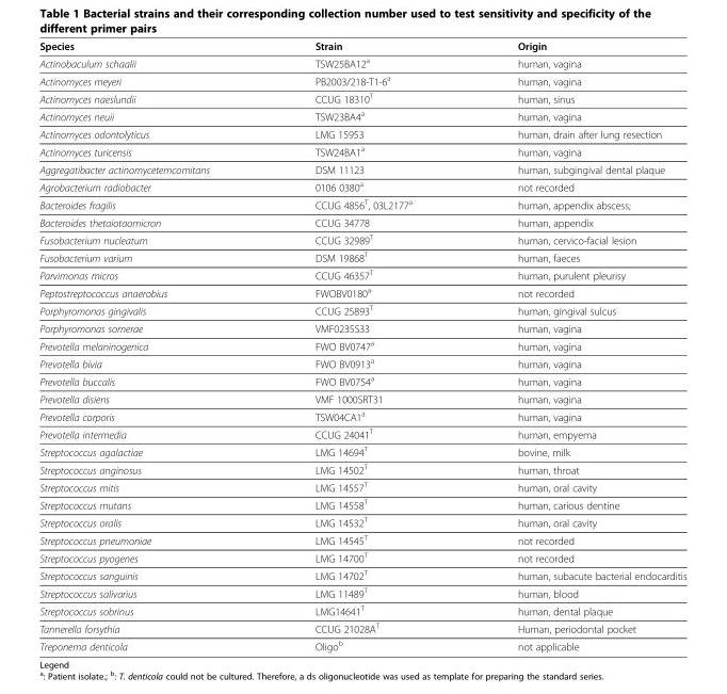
<table><thead><tr><td>Species</td><td>Strain</td><td>Origin</td></tr></thead><tbody><tr><td>Actinobaculum schaalii</td><td>TSW25BA12<sup>a</sup></td><td>human, vagina</td></tr><tr><td>Actinomyces meyeri</td><td>PB2003/218-T1-6<sup>a</sup></td><td>human, vagina</td></tr><tr><td>Actinomyces naeslundii</td><td>CCUG 18310<sup>T</sup></td><td>human, sinus</td></tr><tr><td>Actinomyces neuii</td><td>TSW23BA4<sup>a</sup></td><td>human, vagina</td></tr><tr><td>Actinomyces odontolyticus</td><td>LMG 15953</td><td>human, drain after lung resection</td></tr><tr><td>Actinomyces turicensis</td><td>TSW24BA1<sup>a</sup></td><td>human, vagina</td></tr><tr><td>Aggregatibacter actinomycetemcomitans</td><td>DSM 11123</td><td>human, subgingival dental plaque</td></tr><tr><td>Agrobacterium radiobacter</td><td>0106 0380<sup>a</sup></td><td>not recorded</td></tr><tr><td>Bacteroides fragilis</td><td>CCUG 4856<sup>T</sup>, 03L2177<sup>a</sup></td><td>human, appendix abscess;</td></tr><tr><td>Bacteroides thetaiotaomicron</td><td>CCUG 34778</td><td>human, appendix</td></tr><tr><td>Fusobacterium nucleatum</td><td>CCUG 32989<sup>T</sup></td><td>human, cervico-facial lesion</td></tr><tr><td>Fusobacterium varium</td><td>DSM 19868<sup>T</sup></td><td>human, faeces</td></tr><tr><td>Parvimonas micros</td><td>CCUG 46357<sup>T</sup></td><td>human, purulent pleurisy</td></tr><tr><td>Peptostreptococcus anaerobius</td><td>FWOBV0180<sup>a</sup></td><td>not recorded</td></tr><tr><td>Porphyromonas gingivalis</td><td>CCUG 25893<sup>T</sup></td><td>human, gingival sulcus</td></tr><tr><td>Porphyromonas somerae</td><td>VMF0235S33</td><td>human, vagina</td></tr><tr><td>Prevotella melaninogenica</td><td>FWO BV0747<sup>a</sup></td><td>human, vagina</td></tr><tr><td>Prevotella bivia</td><td>FWO BV0913<sup>a</sup></td><td>human, vagina</td></tr><tr><td>Prevotella buccalis</td><td>FWO BV0754<sup>a</sup></td><td>human, vagina</td></tr><tr><td>Prevotella disiens</td><td>VMF 1000SRT31</td><td>human, vagina</td></tr><tr><td>Prevotella corporis</td><td>TSW04CA1<sup>a</sup></td><td>human, vagina</td></tr><tr><td>Prevotella intermedia</td><td>CCUG 24041<sup>T</sup></td><td>human, empyema</td></tr><tr><td>Streptococcus agalactiae</td><td>LMG 14694<sup>T</sup></td><td>bovine, milk</td></tr><tr><td>Streptococcus anginosus</td><td>LMG 14502<sup>T</sup></td><td>human, throat</td></tr><tr><td>Streptococcus mitis</td><td>LMG 14557<sup>T</sup></td><td>human, oral cavity</td></tr><tr><td>Streptococcus mutans</td><td>LMG 14558<sup>T</sup></td><td>human, carious dentine</td></tr><tr><td>Streptococcus oralis</td><td>LMG 14532<sup>T</sup></td><td>human, oral cavity</td></tr><tr><td>Streptococcus pneumoniae</td><td>LMG 14545<sup>T</sup></td><td>not recorded</td></tr><tr><td>Streptococcus pyogenes</td><td>LMG 14700<sup>T</sup></td><td>not recorded</td></tr><tr><td>Streptococcus sanguinis</td><td>LMG 14702<sup>T</sup></td><td>human, subacute bacterial endocarditis</td></tr><tr><td>Streptococcus salivarius</td><td>LMG 11489<sup>T</sup></td><td>human, blood</td></tr><tr><td>Streptococcus sobrinus</td><td>LMG14641<sup>T</sup></td><td>human, dental plaque</td></tr><tr><td>Tannerella forsythia</td><td>CCUG 21028A<sup>T</sup></td><td>Human, periodontal pocket</td></tr><tr><td>Treponema denticola</td><td>Oligo<sup>b</sup></td><td>not applicable</td></tr></tbody></table>